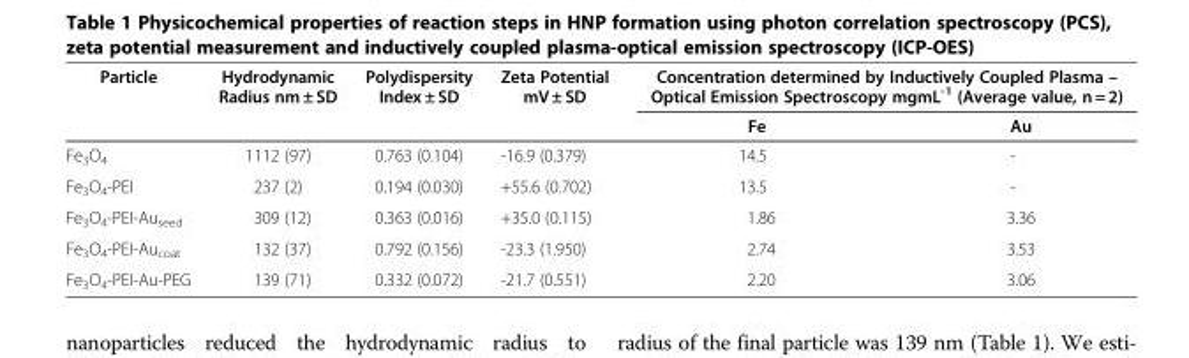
<table><thead><tr><td rowspan="2">Particle</td><td rowspan="2">Hydrodynamic Radius nm ± SD</td><td rowspan="2">Polydispersity Index ± SD</td><td rowspan="2">Zeta Potential mV ± SD</td><td colspan="2">Concentration determined by Inductively Coupled Plasma – Optical Emission Spectroscopy mgmL<sup>-1</sup> (Average value, n = 2)</td></tr><tr><td>Fe</td><td>Au</td></tr></thead><tbody><tr><td>Fe<sub>3</sub>O<sub>4</sub></td><td>1112 (97)</td><td>0.763 (0.104)</td><td>-16.9 (0.379)</td><td>14.5</td><td>-</td></tr><tr><td>Fe<sub>3</sub>O<sub>4</sub>-PEI</td><td>237 (2)</td><td>0.194 (0.030)</td><td>+55.6 (0.702)</td><td>13.5</td><td>-</td></tr><tr><td>Fe<sub>3</sub>O<sub>4</sub>-PEI-Au<sub>seed</sub></td><td>309 (12)</td><td>0.363 (0.016)</td><td>+35.0 (0.115)</td><td>1.86</td><td>3.36</td></tr><tr><td>Fe<sub>3</sub>O<sub>4</sub>-PEI-Au<sub>coat</sub></td><td>132 (37)</td><td>0.792 (0.156)</td><td>-23.3 (1.950)</td><td>2.74</td><td>3.53</td></tr><tr><td>Fe<sub>3</sub>O<sub>4</sub>-PEI-Au-PEG</td><td>139 (71)</td><td>0.332 (0.072)</td><td>-21.7 (0.551)</td><td>2.20</td><td>3.06</td></tr></tbody></table>